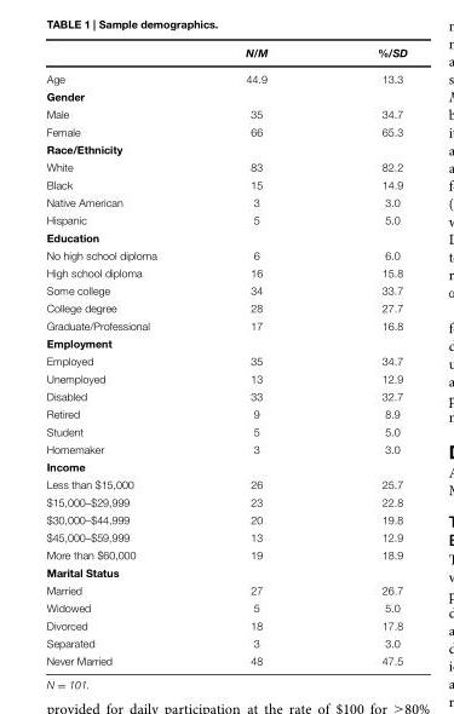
<table><thead><tr><td></td><td>N/M</td><td>%/SD</td></tr></thead><tbody><tr><td>Age</td><td>44.9</td><td>13.3</td></tr><tr><td colspan="3">Gender</td></tr><tr><td>Male</td><td>35</td><td>34.7</td></tr><tr><td>Female</td><td>66</td><td>65.3</td></tr><tr><td colspan="3">Race/Ethnicity</td></tr><tr><td>White</td><td>83</td><td>82.2</td></tr><tr><td>Black</td><td>15</td><td>14.9</td></tr><tr><td>Native American</td><td>3</td><td>3.0</td></tr><tr><td>Hispanic</td><td>5</td><td>5.0</td></tr><tr><td colspan="3">Education</td></tr><tr><td>No high school diploma</td><td>6</td><td>6.0</td></tr><tr><td>High school diploma</td><td>16</td><td>15.8</td></tr><tr><td>Some college</td><td>34</td><td>33.7</td></tr><tr><td>College degree</td><td>28</td><td>27.7</td></tr><tr><td>Graduate/Professional</td><td>17</td><td>16.8</td></tr><tr><td colspan="3">Employment</td></tr><tr><td>Employed</td><td>35</td><td>34.7</td></tr><tr><td>Unemployed</td><td>13</td><td>12.9</td></tr><tr><td>Disabled</td><td>33</td><td>32.7</td></tr><tr><td>Retired</td><td>9</td><td>8.9</td></tr><tr><td>Student</td><td>5</td><td>5.0</td></tr><tr><td>Homemaker</td><td>3</td><td>3.0</td></tr><tr><td colspan="3">Income</td></tr><tr><td>Less than $15,000</td><td>26</td><td>25.7</td></tr><tr><td>$15,000–$29,999</td><td>23</td><td>22.8</td></tr><tr><td>$30,000–$44,999</td><td>20</td><td>19.8</td></tr><tr><td>$45,000–$59,999</td><td>13</td><td>12.9</td></tr><tr><td>More than $60,000</td><td>19</td><td>18.9</td></tr><tr><td colspan="3">Marital Status</td></tr><tr><td>Married</td><td>27</td><td>26.7</td></tr><tr><td>Widowed</td><td>5</td><td>5.0</td></tr><tr><td>Divorced</td><td>18</td><td>17.8</td></tr><tr><td>Separated</td><td>3</td><td>3.0</td></tr><tr><td>Never Married</td><td>48</td><td>47.5</td></tr></tbody></table>